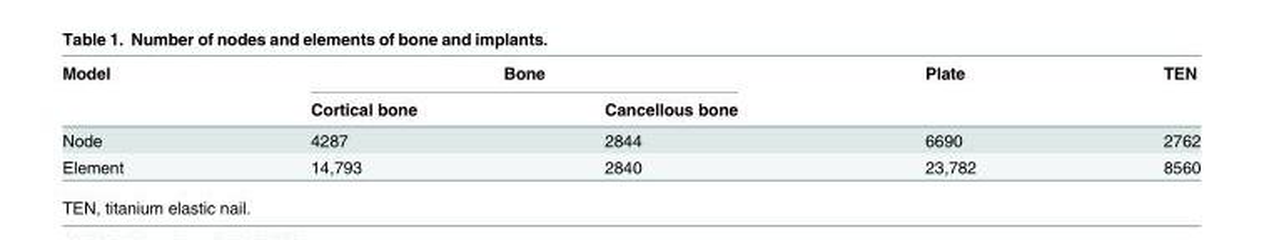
<table><thead><tr><td rowspan="2">Model</td><td colspan="2">Bone</td><td rowspan="2">Plate</td><td rowspan="2">TEN</td></tr><tr><td>Cortical bone</td><td>Cancellous bone</td></tr></thead><tbody><tr><td>Node</td><td>4287</td><td>2844</td><td>6690</td><td>2762</td></tr><tr><td>Element</td><td>14,793</td><td>2840</td><td>23,782</td><td>8560</td></tr></tbody></table>